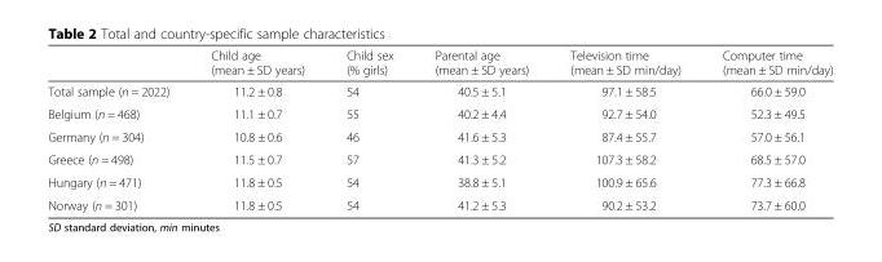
<table><thead><tr><td></td><td>Child age (mean ± SD years)</td><td>Child sex (% girls)</td><td>Parental age (mean ± SD years)</td><td>Television time (mean ± SD min/day)</td><td>Computer time (mean ± SD min/day)</td></tr></thead><tbody><tr><td>Total sample (n = 2022)</td><td>11.2 ± 0.8</td><td>54</td><td>40.5 ± 5.1</td><td>97.1 ± 58.5</td><td>66.0 ± 59.0</td></tr><tr><td>Belgium (n = 468)</td><td>11.1 ± 0.7</td><td>55</td><td>40.2 ± 4.4</td><td>92.7 ± 54.0</td><td>52.3 ± 49.5</td></tr><tr><td>Germany (n = 304)</td><td>10.8 ± 0.6</td><td>46</td><td>41.6 ± 5.3</td><td>87.4 ± 55.7</td><td>57.0 ± 56.1</td></tr><tr><td>Greece (n = 498)</td><td>11.5 ± 0.7</td><td>57</td><td>41.3 ± 5.2</td><td>107.3 ± 58.2</td><td>68.5 ± 57.0</td></tr><tr><td>Hungary (n = 471)</td><td>11.8 ± 0.5</td><td>54</td><td>38.8 ± 5.1</td><td>100.9 ± 65.6</td><td>77.3 ± 66.8</td></tr><tr><td>Norway (n = 301)</td><td>11.8 ± 0.5</td><td>54</td><td>41.2 ± 5.3</td><td>90.2 ± 53.2</td><td>73.7 ± 60.0</td></tr></tbody></table>